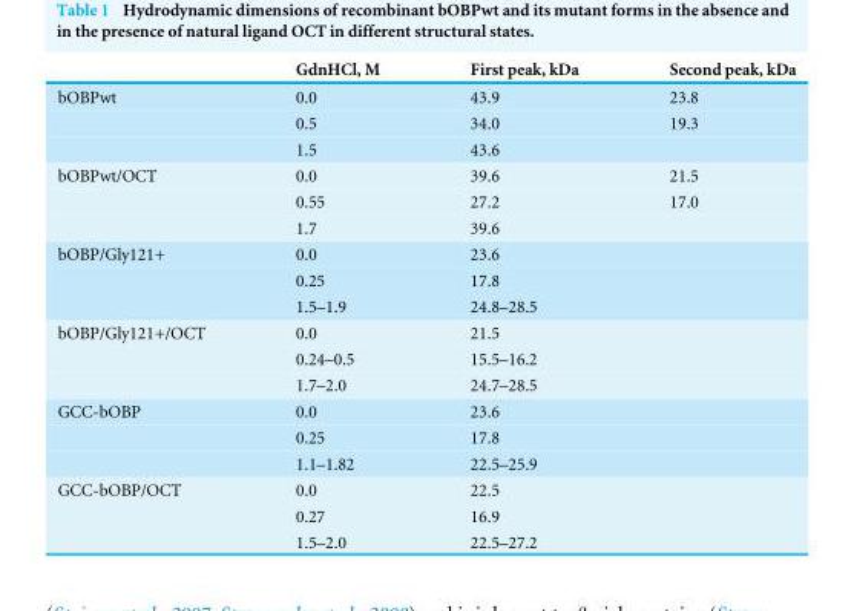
<table><thead><tr><td></td><td>GdnHCl, M</td><td>First peak, kDa</td><td>Second peak, kDa</td></tr></thead><tbody><tr><td rowspan="3">bOBPwt</td><td>0.0</td><td>43.9</td><td>23.8</td></tr><tr><td>0.5</td><td>34.0</td><td>19.3</td></tr><tr><td>1.5</td><td>43.6</td><td></td></tr><tr><td rowspan="3">bOBPwt/OCT</td><td>0.0</td><td>39.6</td><td>21.5</td></tr><tr><td>0.55</td><td>27.2</td><td>17.0</td></tr><tr><td>1.7</td><td>39.6</td><td></td></tr><tr><td rowspan="3">bOBP/Gly121+</td><td>0.0</td><td>23.6</td><td></td></tr><tr><td>0.25</td><td>17.8</td><td></td></tr><tr><td>1.5–1.9</td><td>24.8–28.5</td><td></td></tr><tr><td rowspan="3">bOBP/Gly121+/OCT</td><td>0.0</td><td>21.5</td><td></td></tr><tr><td>0.24–0.5</td><td>15.5–16.2</td><td></td></tr><tr><td>1.7–2.0</td><td>24.7–28.5</td><td></td></tr><tr><td rowspan="3">GCC-bOBP</td><td>0.0</td><td>23.6</td><td></td></tr><tr><td>0.25</td><td>17.8</td><td></td></tr><tr><td>1.1–1.82</td><td>22.5–25.9</td><td></td></tr><tr><td rowspan="3">GCC-bOBP/OCT</td><td>0.0</td><td>22.5</td><td></td></tr><tr><td>0.27</td><td>16.9</td><td></td></tr><tr><td>1.5–2.0</td><td>22.5–27.2</td><td></td></tr></tbody></table>